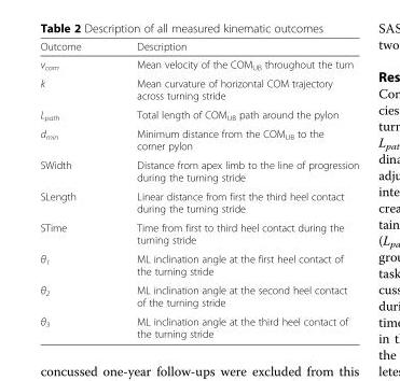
<table><thead><tr><td>Outcome</td><td>Description</td></tr></thead><tbody><tr><td>v<sub>com</sub></td><td>Mean velocity of the COM<sub>UB</sub> throughout the turn</td></tr><tr><td>k</td><td>Mean curvature of horizontal COM trajectory across turning stride</td></tr><tr><td>L<sub>path</sub></td><td>Total length of COM<sub>UB</sub> path around the pylon</td></tr><tr><td>d<sub>min</sub></td><td>Minimum distance from the COM<sub>UB</sub> to the corner pylon</td></tr><tr><td>SWidth</td><td>Distance from apex limb to the line of progression during the turning stride</td></tr><tr><td>SLength</td><td>Linear distance from first the third heel contact during the turning stride</td></tr><tr><td>STime</td><td>Time from first to third heel contact during the turning stride</td></tr><tr><td>θ<sub>1</sub></td><td>ML inclination angle at the first heel contact of the turning stride</td></tr><tr><td>θ<sub>2</sub></td><td>ML inclination angle at the second heel contact of the turning stride</td></tr><tr><td>θ<sub>3</sub></td><td>ML inclination angle at the third heel contact of the turning stride</td></tr></tbody></table>